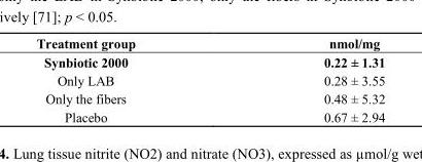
<table><thead><tr><td>Treatment group</td><td>nmol/mg</td></tr></thead><tbody><tr><td>Synbiotic 2000</td><td>0.22 ± 1.31</td></tr><tr><td>Only LAB</td><td>0.28 ± 3.55</td></tr><tr><td>Only the fibers</td><td>0.48 ± 5.32</td></tr><tr><td>Placebo</td><td>0.67 ± 2.94</td></tr></tbody></table>